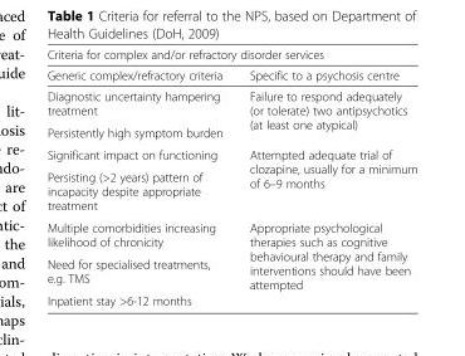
<table><thead><tr><td colspan="2">Criteria for complex and/or refractory disorder services</td></tr><tr><td>Generic complex/refractory criteria</td><td>Specific to a psychosis centre</td></tr></thead><tbody><tr><td>Diagnostic uncertainty hampering treatment</td><td rowspan="2">Failure to respond adequately (or tolerate) two antipsychotics (at least one atypical)</td></tr><tr><td>Persistently high symptom burden</td></tr><tr><td>Significant impact on functioning</td><td rowspan="2">Attempted adequate trial of clozapine, usually for a minimum of 6–9 months</td></tr><tr><td>Persisting (&gt;2 years) pattern of incapacity despite appropriate treatment</td></tr><tr><td>Multiple comorbidities increasing likelihood of chronicity</td><td rowspan="3">Appropriate psychological therapies such as cognitive behavioural therapy and family interventions should have been attempted</td></tr><tr><td>Need for specialised treatments, e.g. TMS</td></tr><tr><td>Inpatient stay &gt;6-12 months</td></tr></tbody></table>